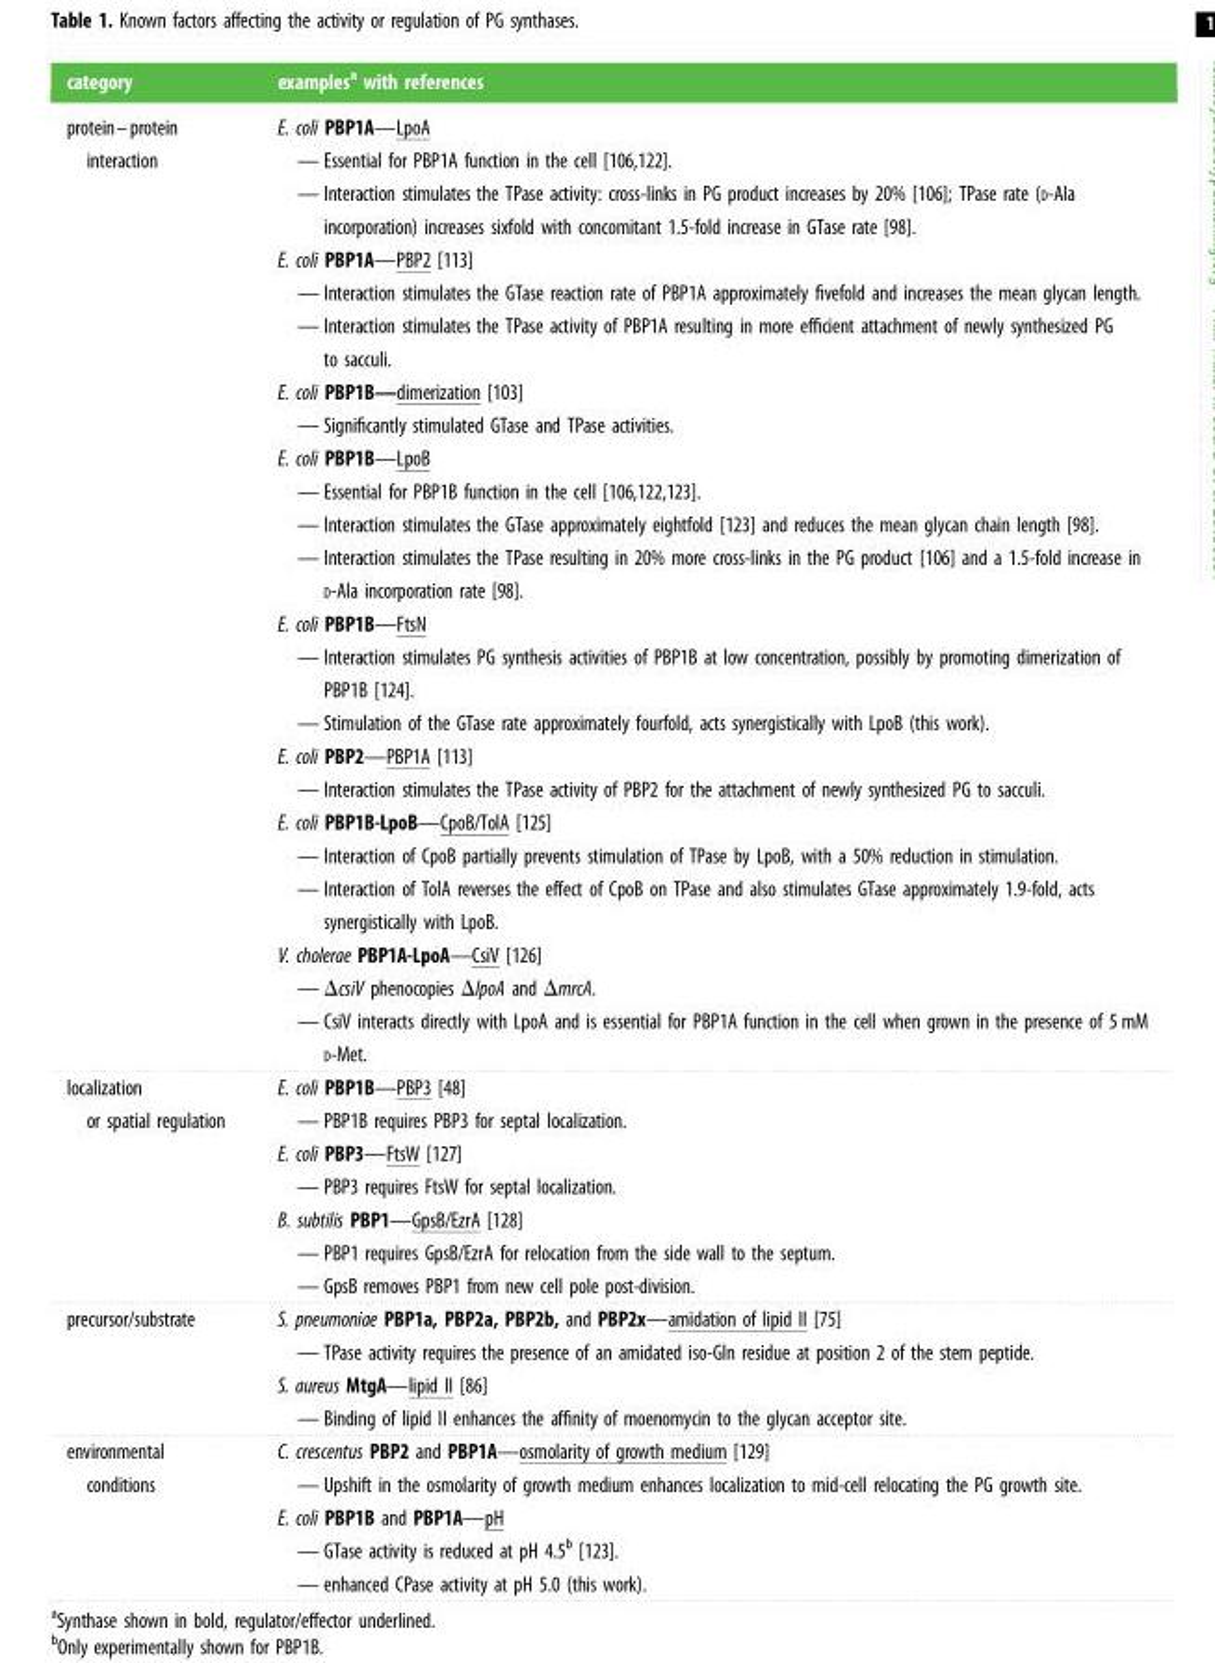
<table><thead><tr><td>category</td><td>examples<sup>a</sup> with references</td></tr></thead><tbody><tr><td>protein–protein interaction</td><td>E. coli PBP1A—LpoA — Essential for PBP1A function in the cell [106,122]. — Interaction stimulates the TPase activity: cross-links in PG product increases by 20% [106]; TPase rate (D-Ala incorporation) increases sixfold with concomitant 1.5-fold increase in GTase rate [98]. E. coli PBP1A—PBP2 [113] — Interaction stimulates the GTase reaction rate of PBP1A approximately fivefold and increases the mean glycan length. — Interaction stimulates the TPase activity of PBP1A resulting in more efficient attachment of newly synthesized PG to sacculi. E. coli PBP1B—dimerization [103] — Significantly stimulated GTase and TPase activities. E. coli PBP1B—LpoB — Essential for PBP1B function in the cell [106,122,123]. — Interaction stimulates the GTase approximately eightfold [123] and reduces the mean glycan chain length [98]. — Interaction stimulates the TPase resulting in 20% more cross-links in the PG product [106] and a 1.5-fold increase in D-Ala incorporation rate [98]. E. coli PBP1B—FtsN — Interaction stimulates PG synthesis activities of PBP1B at low concentration, possibly by promoting dimerization of PBP1B [124]. — Stimulation of the GTase rate approximately fourfold, acts synergistically with LpoB (this work). E. coli PBP2—PBP1A [113] — Interaction stimulates the TPase activity of PBP2 for the attachment of newly synthesized PG to sacculi. E. coli PBP1B-LpoB—CpoB/TolA [125] — Interaction of CpoB partially prevents stimulation of TPase by LpoB, with a 50% reduction in stimulation. — Interaction of TolA reverses the effect of CpoB on TPase and also stimulates GTase approximately 1.9-fold, acts synergistically with LpoB. V. cholerae PBP1A-LpoA—CsiV [126] — ΔcsiV phenocopies ΔlpoA and ΔmrcA. — CsiV interacts directly with LpoA and is essential for PBP1A function in the cell when grown in the presence of 5 mM D-Met.</td></tr><tr><td>localization or spatial regulation</td><td>E. coli PBP1B—PBP3 [48] — PBP1B requires PBP3 for septal localization. E. coli PBP3—FtsW [127] — PBP3 requires FtsW for septal localization. B. subtilis PBP1—GpsB/EzrA [128] — PBP1 requires GpsB/EzrA for relocation from the side wall to the septum. — GpsB removes PBP1 from new cell pole post-division.</td></tr><tr><td>precursor/substrate</td><td>S. pneumoniae PBP1a, PBP2a, PBP2b, and PBP2x—amidation of lipid II [75] — TPase activity requires the presence of an amidated iso-Gln residue at position 2 of the stem peptide. S. aureus MtgA—lipid II [86] — Binding of lipid II enhances the affinity of moenomycin to the glycan acceptor site.</td></tr><tr><td>environmental conditions</td><td>C. crescentus PBP2 and PBP1A—osmolarity of growth medium [129] — Upshift in the osmolarity of growth medium enhances localization to mid-cell relocating the PG growth site. E. coli PBP1B and PBP1A—pH — GTase activity is reduced at pH 4.5<sup>b</sup> [123]. — enhanced CPase activity at pH 5.0 (this work).</td></tr></tbody></table>